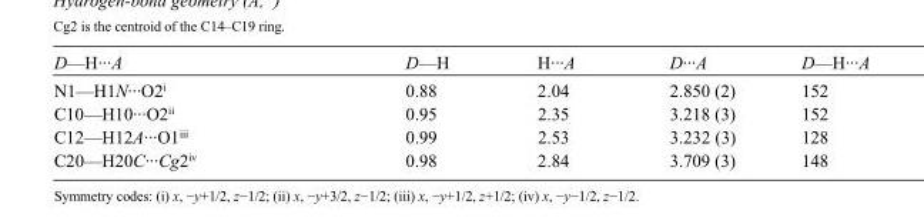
<table><tbody><tr><td>D—H···A</td><td>D—H</td><td>H···A</td><td>D···A</td><td>D—H···A</td></tr><tr><td>N1—H1N···O2<sup>i</sup></td><td>0.88</td><td>2.04</td><td>2.850 (2)</td><td>152</td></tr><tr><td>C10—H10···O2<sup>ii</sup></td><td>0.95</td><td>2.35</td><td>3.218 (3)</td><td>152</td></tr><tr><td>C12—H12A···O1<sup>iii</sup></td><td>0.99</td><td>2.53</td><td>3.232 (3)</td><td>128</td></tr><tr><td>C20—H20C···Cg2<sup>iv</sup></td><td>0.98</td><td>2.84</td><td>3.709 (3)</td><td>148</td></tr></tbody></table>